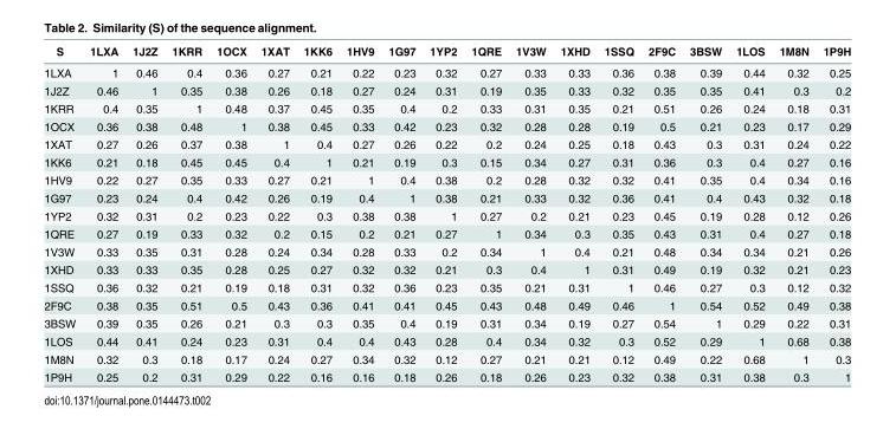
<table><thead><tr><td>S</td><td>1LXA</td><td>1J2Z</td><td>1KRR</td><td>1OCX</td><td>1XAT</td><td>1KK6</td><td>1HV9</td><td>1G97</td><td>1YP2</td><td>1QRE</td><td>1V3W</td><td>1XHD</td><td>1SSQ</td><td>2F9C</td><td>3BSW</td><td>1LOS</td><td>1M8N</td><td>1P9H</td></tr></thead><tbody><tr><td>1LXA</td><td>1</td><td>0.46</td><td>0.4</td><td>0.36</td><td>0.27</td><td>0.21</td><td>0.22</td><td>0.23</td><td>0.32</td><td>0.27</td><td>0.33</td><td>0.33</td><td>0.36</td><td>0.38</td><td>0.39</td><td>0.44</td><td>0.32</td><td>0.25</td></tr><tr><td>1J2Z</td><td>0.46</td><td>1</td><td>0.35</td><td>0.38</td><td>0.26</td><td>0.18</td><td>0.27</td><td>0.24</td><td>0.31</td><td>0.19</td><td>0.35</td><td>0.33</td><td>0.32</td><td>0.35</td><td>0.35</td><td>0.41</td><td>0.3</td><td>0.2</td></tr><tr><td>1KRR</td><td>0.4</td><td>0.35</td><td>1</td><td>0.48</td><td>0.37</td><td>0.45</td><td>0.35</td><td>0.4</td><td>0.2</td><td>0.33</td><td>0.31</td><td>0.35</td><td>0.21</td><td>0.51</td><td>0.26</td><td>0.24</td><td>0.18</td><td>0.31</td></tr><tr><td>1OCX</td><td>0.36</td><td>0.38</td><td>0.48</td><td>1</td><td>0.38</td><td>0.45</td><td>0.33</td><td>0.42</td><td>0.23</td><td>0.32</td><td>0.28</td><td>0.28</td><td>0.19</td><td>0.5</td><td>0.21</td><td>0.23</td><td>0.17</td><td>0.29</td></tr><tr><td>1XAT</td><td>0.27</td><td>0.26</td><td>0.37</td><td>0.38</td><td>1</td><td>0.4</td><td>0.27</td><td>0.26</td><td>0.22</td><td>0.2</td><td>0.24</td><td>0.25</td><td>0.18</td><td>0.43</td><td>0.3</td><td>0.31</td><td>0.24</td><td>0.22</td></tr><tr><td>1KK6</td><td>0.21</td><td>0.18</td><td>0.45</td><td>0.45</td><td>0.4</td><td>1</td><td>0.21</td><td>0.19</td><td>0.3</td><td>0.15</td><td>0.34</td><td>0.27</td><td>0.31</td><td>0.36</td><td>0.3</td><td>0.4</td><td>0.27</td><td>0.16</td></tr><tr><td>1HV9</td><td>0.22</td><td>0.27</td><td>0.35</td><td>0.33</td><td>0.27</td><td>0.21</td><td>1</td><td>0.4</td><td>0.38</td><td>0.2</td><td>0.28</td><td>0.32</td><td>0.32</td><td>0.41</td><td>0.35</td><td>0.4</td><td>0.34</td><td>0.16</td></tr><tr><td>1G97</td><td>0.23</td><td>0.24</td><td>0.4</td><td>0.42</td><td>0.26</td><td>0.19</td><td>0.4</td><td>1</td><td>0.38</td><td>0.21</td><td>0.33</td><td>0.32</td><td>0.36</td><td>0.41</td><td>0.4</td><td>0.43</td><td>0.32</td><td>0.18</td></tr><tr><td>1YP2</td><td>0.32</td><td>0.31</td><td>0.2</td><td>0.23</td><td>0.22</td><td>0.3</td><td>0.38</td><td>0.38</td><td>1</td><td>0.27</td><td>0.2</td><td>0.21</td><td>0.23</td><td>0.45</td><td>0.19</td><td>0.28</td><td>0.12</td><td>0.26</td></tr><tr><td>1QRE</td><td>0.27</td><td>0.19</td><td>0.33</td><td>0.32</td><td>0.2</td><td>0.15</td><td>0.2</td><td>0.21</td><td>0.27</td><td>1</td><td>0.34</td><td>0.3</td><td>0.35</td><td>0.43</td><td>0.31</td><td>0.4</td><td>0.27</td><td>0.18</td></tr><tr><td>1V3W</td><td>0.33</td><td>0.35</td><td>0.31</td><td>0.28</td><td>0.24</td><td>0.34</td><td>0.28</td><td>0.33</td><td>0.2</td><td>0.34</td><td>1</td><td>0.4</td><td>0.21</td><td>0.48</td><td>0.34</td><td>0.34</td><td>0.21</td><td>0.26</td></tr><tr><td>1XHD</td><td>0.33</td><td>0.33</td><td>0.35</td><td>0.28</td><td>0.25</td><td>0.27</td><td>0.32</td><td>0.32</td><td>0.21</td><td>0.3</td><td>0.4</td><td>1</td><td>0.31</td><td>0.49</td><td>0.19</td><td>0.32</td><td>0.21</td><td>0.23</td></tr><tr><td>1SSQ</td><td>0.36</td><td>0.32</td><td>0.21</td><td>0.19</td><td>0.18</td><td>0.31</td><td>0.32</td><td>0.36</td><td>0.23</td><td>0.35</td><td>0.21</td><td>0.31</td><td>1</td><td>0.46</td><td>0.27</td><td>0.3</td><td>0.12</td><td>0.32</td></tr><tr><td>2F9C</td><td>0.38</td><td>0.35</td><td>0.51</td><td>0.5</td><td>0.43</td><td>0.36</td><td>0.41</td><td>0.41</td><td>0.45</td><td>0.43</td><td>0.48</td><td>0.49</td><td>0.46</td><td>1</td><td>0.54</td><td>0.52</td><td>0.49</td><td>0.38</td></tr><tr><td>3BSW</td><td>0.39</td><td>0.35</td><td>0.26</td><td>0.21</td><td>0.3</td><td>0.3</td><td>0.35</td><td>0.4</td><td>0.19</td><td>0.31</td><td>0.34</td><td>0.19</td><td>0.27</td><td>0.54</td><td>1</td><td>0.29</td><td>0.22</td><td>0.31</td></tr><tr><td>1LOS</td><td>0.44</td><td>0.41</td><td>0.24</td><td>0.23</td><td>0.31</td><td>0.4</td><td>0.4</td><td>0.43</td><td>0.28</td><td>0.4</td><td>0.34</td><td>0.32</td><td>0.3</td><td>0.52</td><td>0.29</td><td>1</td><td>0.68</td><td>0.38</td></tr><tr><td>1M8N</td><td>0.32</td><td>0.3</td><td>0.18</td><td>0.17</td><td>0.24</td><td>0.27</td><td>0.34</td><td>0.32</td><td>0.12</td><td>0.27</td><td>0.21</td><td>0.21</td><td>0.12</td><td>0.49</td><td>0.22</td><td>0.68</td><td>1</td><td>0.3</td></tr><tr><td>1P9H</td><td>0.25</td><td>0.2</td><td>0.31</td><td>0.29</td><td>0.22</td><td>0.16</td><td>0.16</td><td>0.18</td><td>0.26</td><td>0.18</td><td>0.26</td><td>0.23</td><td>0.32</td><td>0.38</td><td>0.31</td><td>0.38</td><td>0.3</td><td>1</td></tr></tbody></table>